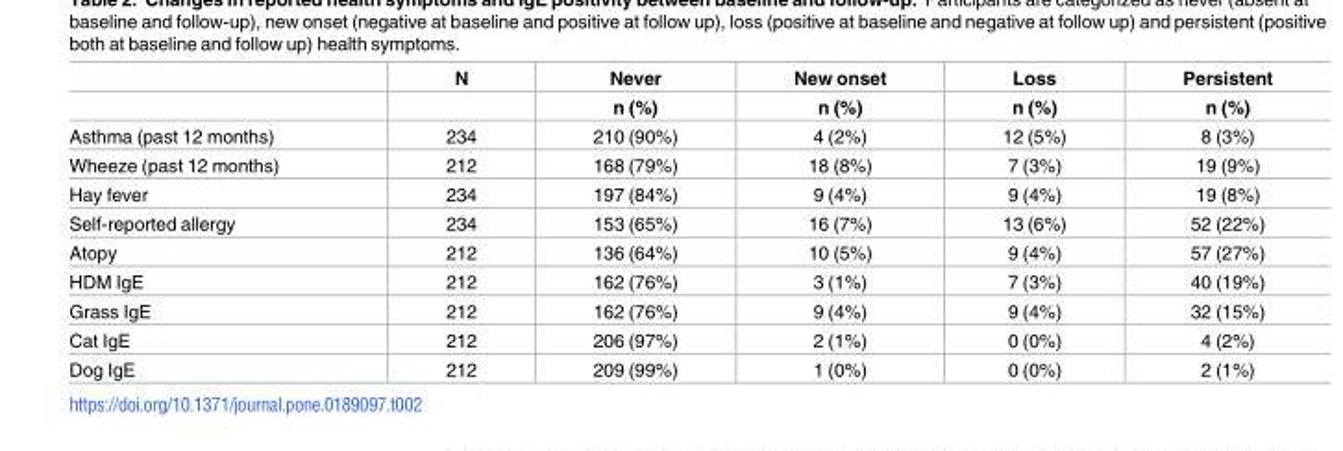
<table><thead><tr><td rowspan="2"></td><td rowspan="2">N</td><td rowspan="2">Never n (%)</td><td rowspan="2">New onset n (%)</td><td rowspan="2">Loss n (%)</td><td rowspan="2">Persistent n (%)</td></tr><tr></tr></thead><tbody><tr><td>Asthma (past 12 months)</td><td>234</td><td>210 (90%)</td><td>4 (2%)</td><td>12 (5%)</td><td>8 (3%)</td></tr><tr><td>Wheeze (past 12 months)</td><td>212</td><td>168 (79%)</td><td>18 (8%)</td><td>7 (3%)</td><td>19 (9%)</td></tr><tr><td>Hay fever</td><td>234</td><td>197 (84%)</td><td>9 (4%)</td><td>9 (4%)</td><td>19 (8%)</td></tr><tr><td>Self-reported allergy</td><td>234</td><td>153 (65%)</td><td>16 (7%)</td><td>13 (6%)</td><td>52 (22%)</td></tr><tr><td>Atopy</td><td>212</td><td>136 (64%)</td><td>10 (5%)</td><td>9 (4%)</td><td>57 (27%)</td></tr><tr><td>HDM IgE</td><td>212</td><td>162 (76%)</td><td>3 (1%)</td><td>7 (3%)</td><td>40 (19%)</td></tr><tr><td>Grass IgE</td><td>212</td><td>162 (76%)</td><td>9 (4%)</td><td>9 (4%)</td><td>32 (15%)</td></tr><tr><td>Cat IgE</td><td>212</td><td>206 (97%)</td><td>2 (1%)</td><td>0 (0%)</td><td>4 (2%)</td></tr><tr><td>Dog IgE</td><td>212</td><td>209 (99%)</td><td>1 (0%)</td><td>0 (0%)</td><td>2 (1%)</td></tr></tbody></table>